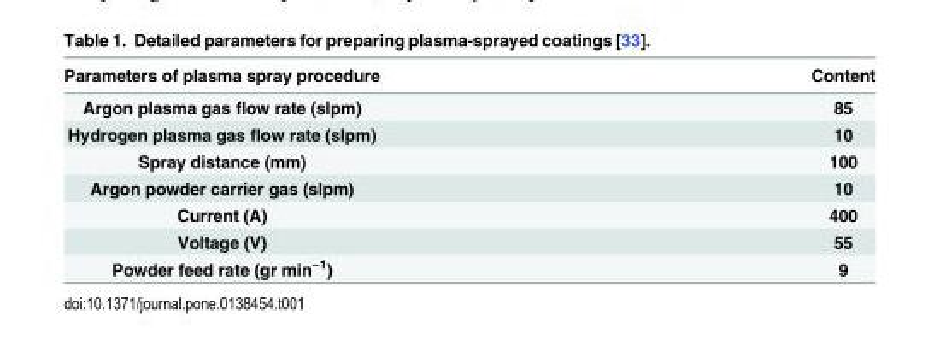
<table><thead><tr><td>Parameters of plasma spray procedure</td><td>Content</td></tr></thead><tbody><tr><td>Argon plasma gas flow rate (slpm)</td><td>85</td></tr><tr><td>Hydrogen plasma gas flow rate (slpm)</td><td>10</td></tr><tr><td>Spray distance (mm)</td><td>100</td></tr><tr><td>Argon powder carrier gas (slpm)</td><td>10</td></tr><tr><td>Current (A)</td><td>400</td></tr><tr><td>Voltage (V)</td><td>55</td></tr><tr><td>Powder feed rate (gr min<sup>−1</sup>)</td><td>9</td></tr></tbody></table>